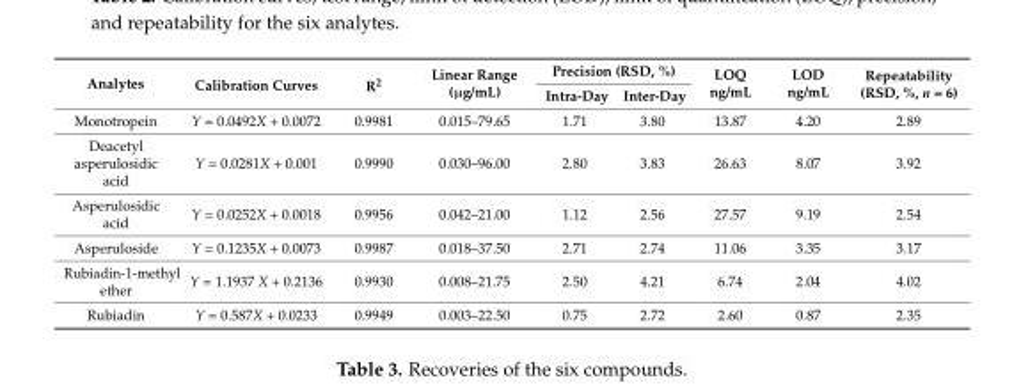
<table><thead><tr><td rowspan="2">Analytes</td><td rowspan="2">Calibration Curves</td><td rowspan="2">R<sup>2</sup></td><td rowspan="2">Linear Range (µg/mL)</td><td colspan="2">Precision (RSD, %)</td><td rowspan="2">LOQ ng/mL</td><td rowspan="2">LOD ng/mL</td><td rowspan="2">Repeatability (RSD, %, n = 6)</td></tr><tr><td>Intra-Day</td><td>Inter-Day</td></tr></thead><tbody><tr><td>Monotropein</td><td>Y = 0.0492X + 0.0072</td><td>0.9981</td><td>0.015–79.65</td><td>1.71</td><td>3.80</td><td>13.87</td><td>4.20</td><td>2.89</td></tr><tr><td>Deacetyl asperulosidic acid</td><td>Y = 0.0281X + 0.001</td><td>0.9990</td><td>0.030–96.00</td><td>2.80</td><td>3.83</td><td>26.63</td><td>8.07</td><td>3.92</td></tr><tr><td>Asperulosidic acid</td><td>Y = 0.0252X + 0.0018</td><td>0.9956</td><td>0.042–21.00</td><td>1.12</td><td>2.56</td><td>27.57</td><td>9.19</td><td>2.54</td></tr><tr><td>Asperuloside</td><td>Y = 0.1235X + 0.0073</td><td>0.9987</td><td>0.018–37.50</td><td>2.71</td><td>2.74</td><td>11.06</td><td>3.35</td><td>3.17</td></tr><tr><td>Rubiadin-1-methyl ether</td><td>Y = 1.1937 X + 0.2136</td><td>0.9930</td><td>0.008–21.75</td><td>2.50</td><td>4.21</td><td>6.74</td><td>2.04</td><td>4.02</td></tr><tr><td>Rubiadin</td><td>Y = 0.587X + 0.0233</td><td>0.9949</td><td>0.003–22.50</td><td>0.75</td><td>2.72</td><td>2.60</td><td>0.87</td><td>2.35</td></tr></tbody></table>